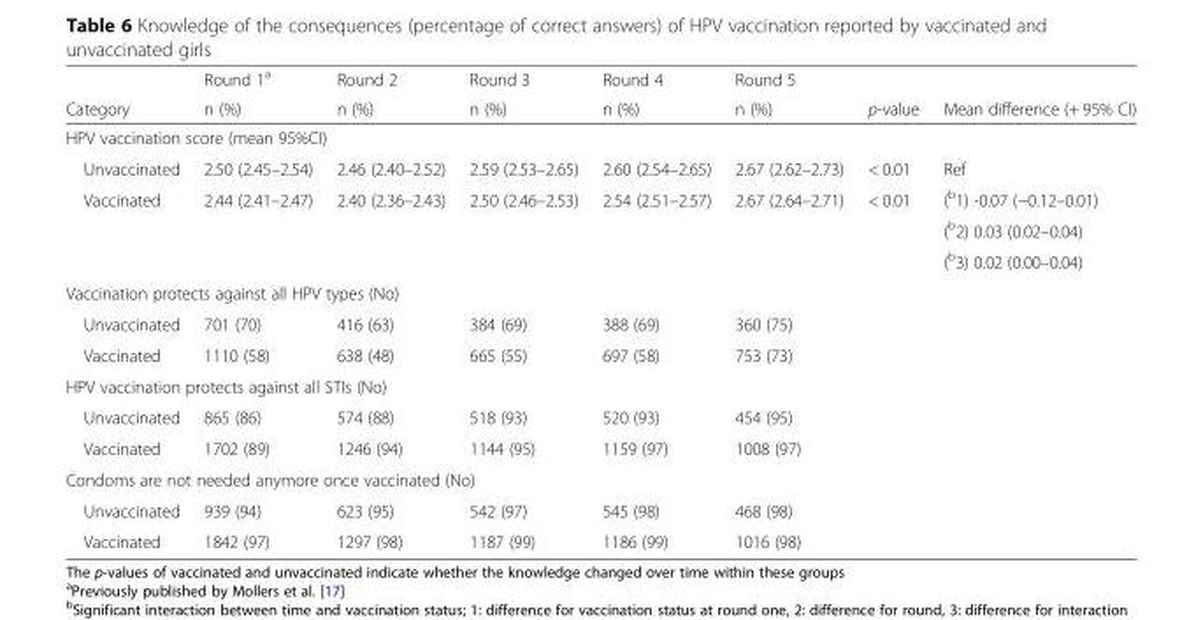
<table><thead><tr><td rowspan="2">Category</td><td rowspan="2">Round 1<sup>a</sup> n (%)</td><td rowspan="2">Round 2 n (%)</td><td rowspan="2">Round 3 n (%)</td><td rowspan="2">Round 4 n (%)</td><td rowspan="2">Round 5 n (%)</td><td rowspan="2">p-value</td><td rowspan="2">Mean difference (+ 95% CI)</td></tr><tr></tr></thead><tbody><tr><td colspan="8">HPV vaccination score (mean 95%CI)</td></tr><tr><td>Unvaccinated</td><td>2.50 (2.45–2.54)</td><td>2.46 (2.40–2.52)</td><td>2.59 (2.53–2.65)</td><td>2.60 (2.54–2.65)</td><td>2.67 (2.62–2.73)</td><td>&lt; 0.01</td><td>Ref</td></tr><tr><td rowspan="3">Vaccinated</td><td>2.44 (2.41–2.47)</td><td>2.40 (2.36–2.43)</td><td>2.50 (2.46–2.53)</td><td>2.54 (2.51–2.57)</td><td>2.67 (2.64–2.71)</td><td>&lt; 0.01</td><td>(b1) -0.07 (−0.12–0.01)</td></tr><tr><td></td><td></td><td></td><td></td><td></td><td></td><td>(<sup>b</sup>2) 0.03 (0.02–0.04)</td></tr><tr><td></td><td></td><td></td><td></td><td></td><td></td><td>(<sup>b</sup>3) 0.02 (0.00–0.04)</td></tr><tr><td colspan="8">Vaccination protects against all HPV types (No)</td></tr><tr><td>Unvaccinated</td><td>701 (70)</td><td>416 (63)</td><td>384 (69)</td><td>388 (69)</td><td>360 (75)</td><td></td><td></td></tr><tr><td>Vaccinated</td><td>1110 (58)</td><td>638 (48)</td><td>665 (55)</td><td>697 (58)</td><td>753 (73)</td><td></td><td></td></tr><tr><td colspan="8">HPV vaccination protects against all STIs (No)</td></tr><tr><td>Unvaccinated</td><td>865 (86)</td><td>574 (88)</td><td>518 (93)</td><td>520 (93)</td><td>454 (95)</td><td></td><td></td></tr><tr><td>Vaccinated</td><td>1702 (89)</td><td>1246 (94)</td><td>1144 (95)</td><td>1159 (97)</td><td>1008 (97)</td><td></td><td></td></tr><tr><td colspan="8">Condoms are not needed anymore once vaccinated (No)</td></tr><tr><td>Unvaccinated</td><td>939 (94)</td><td>623 (95)</td><td>542 (97)</td><td>545 (98)</td><td>468 (98)</td><td></td><td></td></tr><tr><td>Vaccinated</td><td>1842 (97)</td><td>1297 (98)</td><td>1187 (99)</td><td>1186 (99)</td><td>1016 (98)</td><td></td><td></td></tr></tbody></table>